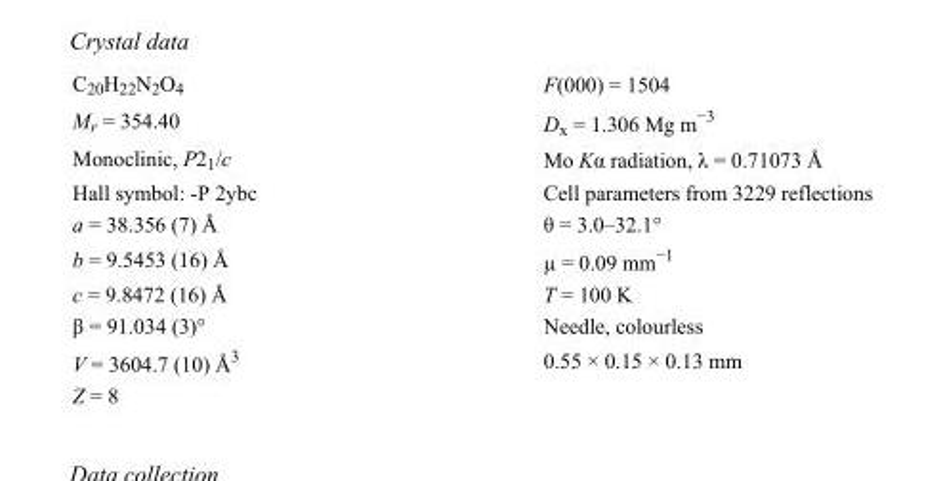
<table><tbody><tr><td>C<sub>20</sub>H<sub>22</sub>N<sub>2</sub>O<sub>4</sub></td><td>F(000) = 1504</td></tr><tr><td>M<sub>r</sub> = 354.40</td><td>D<sub>x</sub> = 1.306 Mg m<sup>−3</sup></td></tr><tr><td>Monoclinic, P2<sub>1</sub>/c</td><td>Mo Kα radiation, λ = 0.71073 Å</td></tr><tr><td>Hall symbol: -P 2ybc</td><td>Cell parameters from 3229 reflections</td></tr><tr><td>a = 38.356 (7) Å</td><td>θ = 3.0–32.1°</td></tr><tr><td>b = 9.5453 (16) Å</td><td>µ = 0.09 mm<sup>−1</sup></td></tr><tr><td>c = 9.8472 (16) Å</td><td>T = 100 K</td></tr><tr><td>β = 91.034 (3)°</td><td>Needle, colourless</td></tr><tr><td>V = 3604.7 (10) Å<sup>3</sup></td><td>0.55 × 0.15 × 0.13 mm</td></tr><tr><td>Z = 8</td><td></td></tr></tbody></table>